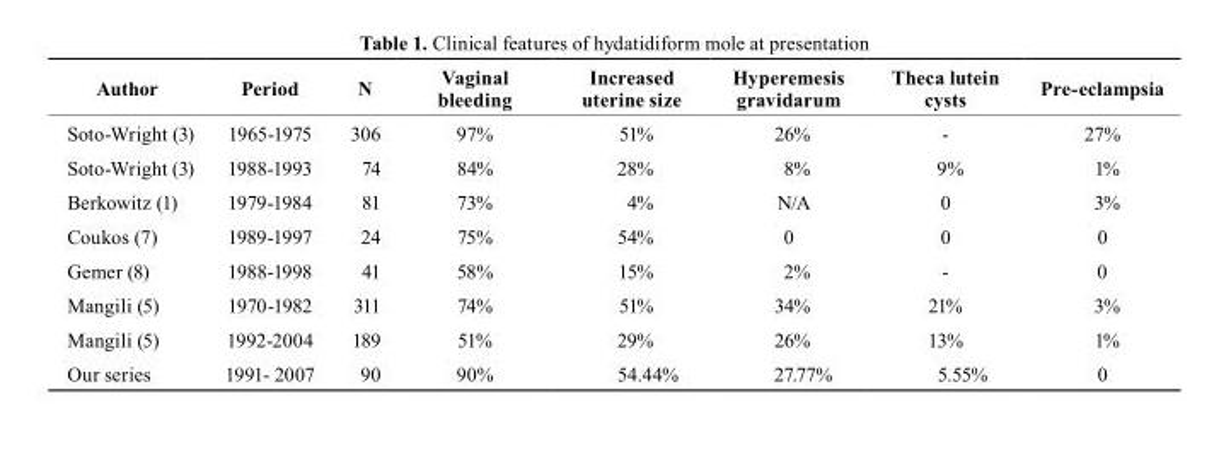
<table><thead><tr><td>Author</td><td>Period</td><td>n</td><td>Vaginal bleeding</td><td>Increased uterine size</td><td>Hyperemesis gravidarum</td><td>theca lutein cysts</td><td>Pre-eclampsia</td></tr></thead><tbody><tr><td>Soto-Wright (3)</td><td>1965-1975</td><td>306</td><td>97%</td><td>51%</td><td>26%</td><td>-</td><td>27%</td></tr><tr><td>Soto-Wright (3)</td><td>1988-1993</td><td>74</td><td>84%</td><td>28%</td><td>8%</td><td>9%</td><td>1%</td></tr><tr><td>Berkowitz (1)</td><td>1979-1984</td><td>81</td><td>73%</td><td>4%</td><td>N/A</td><td>0</td><td>3%</td></tr><tr><td>Coukos (7)</td><td>1989-1997</td><td>24</td><td>75%</td><td>54%</td><td>0</td><td>0</td><td>0</td></tr><tr><td>Gemer (8)</td><td>1988-1998</td><td>41</td><td>58%</td><td>15%</td><td>2%</td><td>-</td><td>0</td></tr><tr><td>Mangili (5)</td><td>1970-1982</td><td>311</td><td>74%</td><td>51%</td><td>34%</td><td>21%</td><td>3%</td></tr><tr><td>Mangili (5)</td><td>1992-2004</td><td>189</td><td>51%</td><td>29%</td><td>26%</td><td>13%</td><td>1%</td></tr><tr><td>Our series</td><td>1991- 2007</td><td>90</td><td>90%</td><td>54.44%</td><td>27.77%</td><td>5.55%</td><td>0</td></tr></tbody></table>